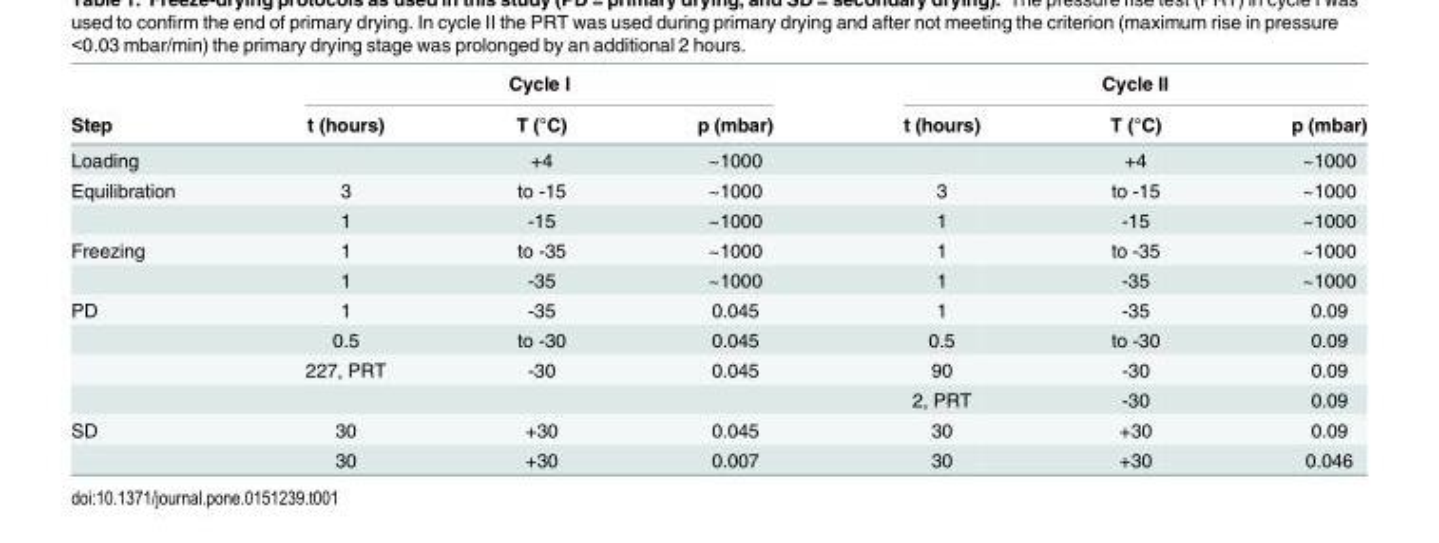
<table><thead><tr><td rowspan="2">Step</td><td colspan="3">Cycle I</td><td colspan="3">Cycle II</td></tr><tr><td>t (hours)</td><td>T (°C)</td><td>p (mbar)</td><td>t (hours)</td><td>T (°C)</td><td>p (mbar)</td></tr></thead><tbody><tr><td>Loading</td><td></td><td>+4</td><td>~1000</td><td></td><td>+4</td><td>~1000</td></tr><tr><td rowspan="2">Equilibration</td><td>3</td><td>to -15</td><td>~1000</td><td>3</td><td>to -15</td><td>~1000</td></tr><tr><td>1</td><td>-15</td><td>~1000</td><td>1</td><td>-15</td><td>~1000</td></tr><tr><td rowspan="2">Freezing</td><td>1</td><td>to -35</td><td>~1000</td><td>1</td><td>to -35</td><td>~1000</td></tr><tr><td>1</td><td>-35</td><td>~1000</td><td>1</td><td>-35</td><td>~1000</td></tr><tr><td rowspan="4">PD</td><td>1</td><td>-35</td><td>0.045</td><td>1</td><td>-35</td><td>0.09</td></tr><tr><td>0.5</td><td>to -30</td><td>0.045</td><td>0.5</td><td>to -30</td><td>0.09</td></tr><tr><td>227, PRT</td><td>-30</td><td>0.045</td><td>90</td><td>-30</td><td>0.09</td></tr><tr><td></td><td></td><td></td><td>2, PRT</td><td>-30</td><td>0.09</td></tr><tr><td rowspan="2">SD</td><td>30</td><td>+30</td><td>0.045</td><td>30</td><td>+30</td><td>0.09</td></tr><tr><td>30</td><td>+30</td><td>0.007</td><td>30</td><td>+30</td><td>0.046</td></tr></tbody></table>